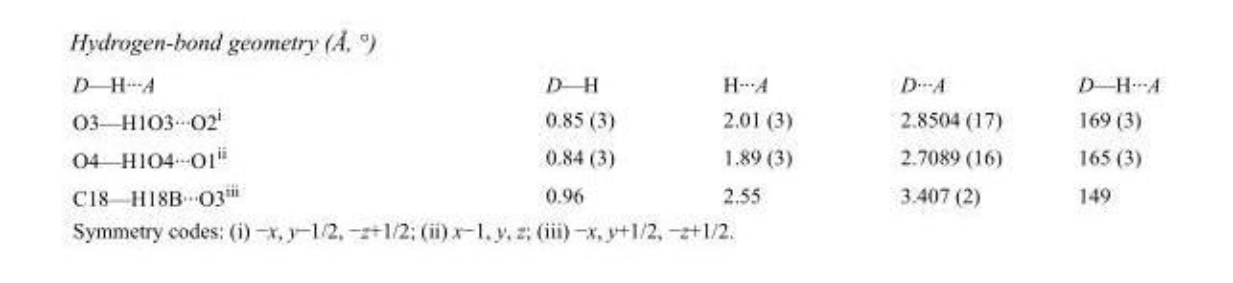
<table><tbody><tr><td>D—H···A</td><td>D—H</td><td>H···A</td><td>D···A</td><td>D—H···A</td></tr><tr><td>O3—H1O3···O2<sup>i</sup></td><td>0.85 (3)</td><td>2.01 (3)</td><td>2.8504 (17)</td><td>169 (3)</td></tr><tr><td>O4—H1O4···O1<sup>ii</sup></td><td>0.84 (3)</td><td>1.89 (3)</td><td>2.7089 (16)</td><td>165 (3)</td></tr><tr><td>C18—H18B···O3<sup>iii</sup></td><td>0.96</td><td>2.55</td><td>3.407 (2)</td><td>149</td></tr></tbody></table>